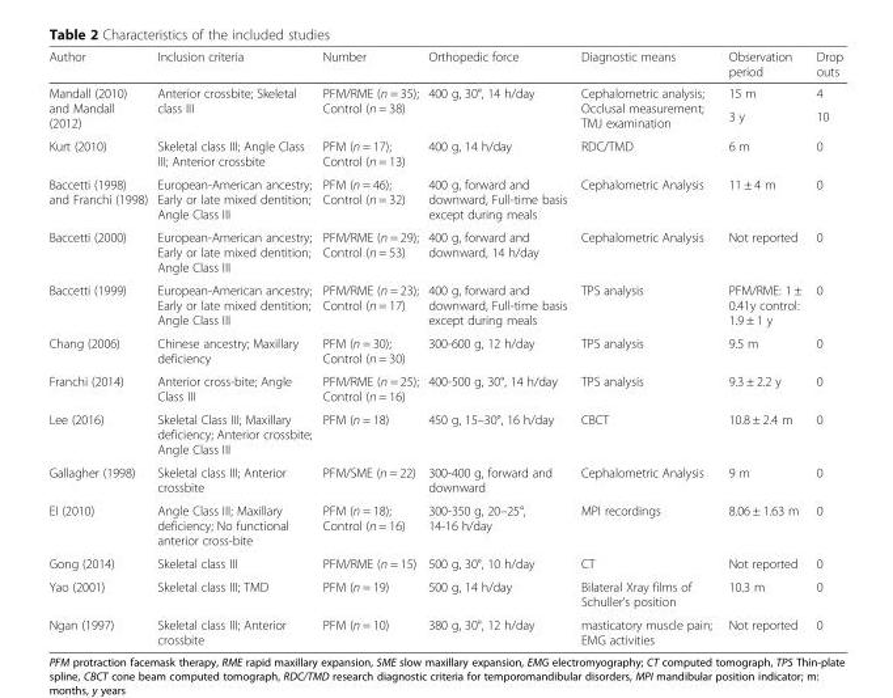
<table><thead><tr><td>Author</td><td>Inclusion criteria</td><td>Number</td><td>Orthopedic force</td><td>Diagnostic means</td><td>Observation period</td><td>Drop outs</td></tr></thead><tbody><tr><td rowspan="2">Mandall (2010) and Mandall (2012)</td><td rowspan="2">Anterior crossbite; Skeletal class III</td><td rowspan="2">PFM/RME (n = 35); Control (n = 38)</td><td rowspan="2">400 g, 30°, 14 h/day</td><td rowspan="2">Cephalometric analysis; Occlusal measurement; TMJ examination</td><td>15 m</td><td>4</td></tr><tr><td>3 y</td><td>10</td></tr><tr><td>Kurt (2010)</td><td>Skeletal class III; Angle Class III; Anterior crossbite</td><td>PFM (n = 17); Control (n = 13)</td><td>400 g, 14 h/day</td><td>RDC/TMD</td><td>6 m</td><td>0</td></tr><tr><td>Baccetti (1998) and Franchi (1998)</td><td>European-American ancestry; Early or late mixed dentition; Angle Class III</td><td>PFM (n = 46); Control (n = 32)</td><td>400 g, forward and downward, Full-time basis except during meals</td><td>Cephalometric Analysis</td><td>11 ± 4 m</td><td>0</td></tr><tr><td>Baccetti (2000)</td><td>European-American ancestry; Early or late mixed dentition; Angle Class III</td><td>PFM/RME (n = 29); Control (n = 53)</td><td>400 g, forward and downward, 14 h/day</td><td>Cephalometric Analysis</td><td>Not reported</td><td>0</td></tr><tr><td>Baccetti (1999)</td><td>European-American ancestry; Early or late mixed dentition; Angle Class III</td><td>PFM/RME (n = 23); Control (n = 17)</td><td>400 g, forward and downward, Full-time basis except during meals</td><td>TPS analysis</td><td>PFM/RME: 1 ± 0.41y control: 1.9 ± 1 y</td><td>0</td></tr><tr><td>Chang (2006)</td><td>Chinese ancestry; Maxillary deficiency</td><td>PFM (n = 30); Control (n = 30)</td><td>300-600 g, 12 h/day</td><td>TPS analysis</td><td>9.5 m</td><td>0</td></tr><tr><td>Franchi (2014)</td><td>Anterior cross-bite; Angle Class III</td><td>PFM/RME (n = 25); Control (n = 16)</td><td>400-500 g, 30°, 14 h/day</td><td>TPS analysis</td><td>9.3 ± 2.2 y</td><td>0</td></tr><tr><td>Lee (2016)</td><td>Skeletal Class III; Maxillary deficiency; Anterior crossbite; Angle Class III</td><td>PFM (n = 18)</td><td>450 g, 15–30°, 16 h/day</td><td>CBCT</td><td>10.8 ± 2.4 m</td><td>0</td></tr><tr><td>Gallagher (1998)</td><td>Skeletal class III; Anterior crossbite</td><td>PFM/SME (n = 22)</td><td>300-400 g, forward and downward</td><td>Cephalometric Analysis</td><td>9 m</td><td>0</td></tr><tr><td>EI (2010)</td><td>Angle Class III; Maxillary deficiency; No functional anterior cross-bite</td><td>PFM (n = 18); Control (n = 16)</td><td>300-350 g, 20–25°, 14-16 h/day</td><td>MPI recordings</td><td>8.06 ± 1.63 m</td><td>0</td></tr><tr><td>Gong (2014)</td><td>Skeletal class III</td><td>PFM/RME (n = 15)</td><td>500 g, 30°, 10 h/day</td><td>CT</td><td>Not reported</td><td>0</td></tr><tr><td>Yao (2001)</td><td>Skeletal class III; TMD</td><td>PFM (n = 19)</td><td>500 g, 14 h/day</td><td>Bilateral Xray films of Schuller’s position</td><td>10.3 m</td><td>0</td></tr><tr><td>Ngan (1997)</td><td>Skeletal class III; Anterior crossbite</td><td>PFM (n = 10)</td><td>380 g, 30°, 12 h/day</td><td>masticatory muscle pain; EMG activities</td><td>Not reported</td><td>0</td></tr></tbody></table>